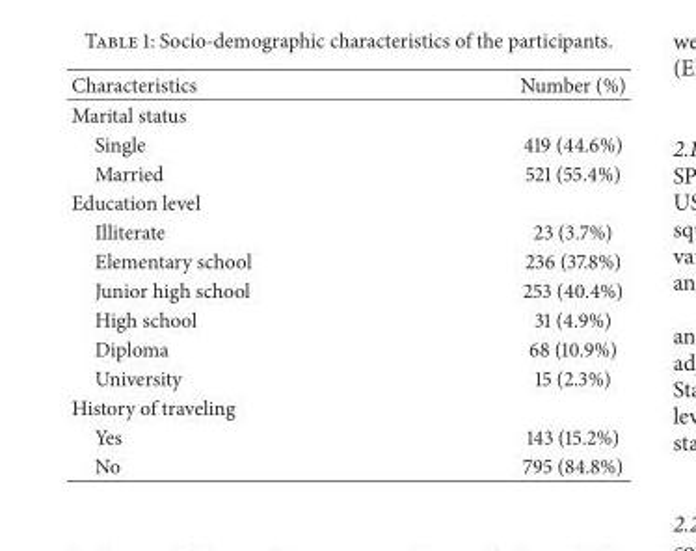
<table><thead><tr><td>Characteristics</td><td>Number (%)</td></tr></thead><tbody><tr><td colspan="2">Marital status</td></tr><tr><td>Single</td><td>419 (44.6%)</td></tr><tr><td>Married</td><td>521 (55.4%)</td></tr><tr><td colspan="2">Education level</td></tr><tr><td>Illiterate</td><td>23 (3.7%)</td></tr><tr><td>Elementary school</td><td>236 (37.8%)</td></tr><tr><td>Junior high school</td><td>253 (40.4%)</td></tr><tr><td>High school</td><td>31 (4.9%)</td></tr><tr><td>Diploma</td><td>68 (10.9%)</td></tr><tr><td>University</td><td>15 (2.3%)</td></tr><tr><td colspan="2">History of traveling</td></tr><tr><td>Yes</td><td>143 (15.2%)</td></tr><tr><td>No</td><td>795 (84.8%)</td></tr></tbody></table>